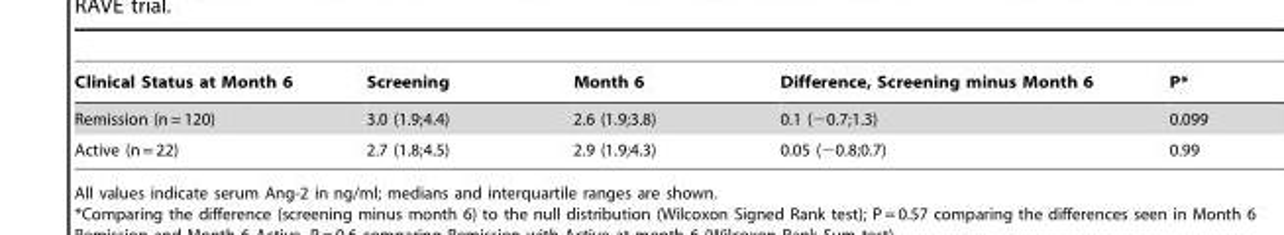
<table><thead><tr><td>Clinical Status at Month 6</td><td>Screening</td><td>Month 6</td><td>Difference, Screening minus Month 6</td><td>P*</td></tr></thead><tbody><tr><td>Remission (n = 120)</td><td>3.0 (1.9;4.4)</td><td>2.6 (1.9;3.8)</td><td>0.1 (−0.7;1.3)</td><td>0.099</td></tr><tr><td>Active (n = 22)</td><td>2.7 (1.8;4.5)</td><td>2.9 (1.9;4.3)</td><td>0.05 (−0.8;0.7)</td><td>0.99</td></tr></tbody></table>